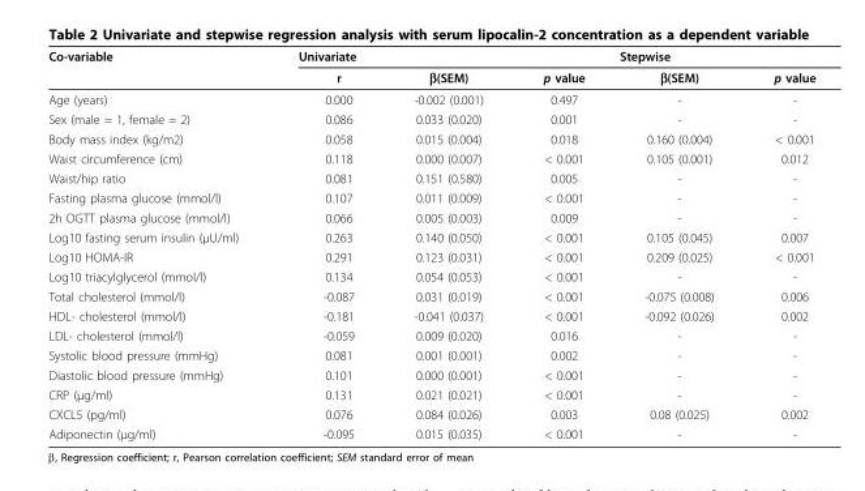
<table><thead><tr><td rowspan="2">Co-variable</td><td colspan="3">Univariate</td><td colspan="2">Stepwise</td></tr><tr><td>r</td><td>β(SEM)</td><td>p value</td><td>β(SEM)</td><td>p value</td></tr></thead><tbody><tr><td>Age (years)</td><td>0.000</td><td>-0.002 (0.001)</td><td>0.497</td><td>-</td><td>-</td></tr><tr><td>Sex (male = 1, female = 2)</td><td>0.086</td><td>0.033 (0.020)</td><td>0.001</td><td>-</td><td>-</td></tr><tr><td>Body mass index (kg/m2)</td><td>0.058</td><td>0.015 (0.004)</td><td>0.018</td><td>0.160 (0.004)</td><td>&lt; 0.001</td></tr><tr><td>Waist circumference (cm)</td><td>0.118</td><td>0.000 (0.007)</td><td>&lt; 0.001</td><td>0.105 (0.001)</td><td>0.012</td></tr><tr><td>Waist/hip ratio</td><td>0.081</td><td>0.151 (0.580)</td><td>0.005</td><td>-</td><td>-</td></tr><tr><td>Fasting plasma glucose (mmol/l)</td><td>0.107</td><td>0.011 (0.009)</td><td>&lt; 0.001</td><td>-</td><td>-</td></tr><tr><td>2h OGTT plasma glucose (mmol/l)</td><td>0.066</td><td>0.005 (0.003)</td><td>0.009</td><td>-</td><td>-</td></tr><tr><td>Log10 fasting serum insulin (μU/ml)</td><td>0.263</td><td>0.140 (0.050)</td><td>&lt; 0.001</td><td>0.105 (0.045)</td><td>0.007</td></tr><tr><td>Log10 HOMA-IR</td><td>0.291</td><td>0.123 (0.031)</td><td>&lt; 0.001</td><td>0.209 (0.025)</td><td>&lt; 0.001</td></tr><tr><td>Log10 triacylglycerol (mmol/l)</td><td>0.134</td><td>0.054 (0.053)</td><td>&lt; 0.001</td><td>-</td><td>-</td></tr><tr><td>Total cholesterol (mmol/l)</td><td>-0.087</td><td>0.031 (0.019)</td><td>&lt; 0.001</td><td>-0.075 (0.008)</td><td>0.006</td></tr><tr><td>HDL- cholesterol (mmol/l)</td><td>-0.181</td><td>-0.041 (0.037)</td><td>&lt; 0.001</td><td>-0.092 (0.026)</td><td>0.002</td></tr><tr><td>LDL- cholesterol (mmol/l)</td><td>-0.059</td><td>0.009 (0.020)</td><td>0.016</td><td>-</td><td>-</td></tr><tr><td>Systolic blood pressure (mmHg)</td><td>0.081</td><td>0.001 (0.001)</td><td>0.002</td><td>-</td><td>-</td></tr><tr><td>Diastolic blood pressure (mmHg)</td><td>0.101</td><td>0.000 (0.001)</td><td>&lt; 0.001</td><td>-</td><td>-</td></tr><tr><td>CRP (μg/ml)</td><td>0.131</td><td>0.021 (0.021)</td><td>&lt; 0.001</td><td>-</td><td>-</td></tr><tr><td>CXCL5 (pg/ml)</td><td>0.076</td><td>0.084 (0.026)</td><td>0.003</td><td>0.08 (0.025)</td><td>0.002</td></tr><tr><td>Adiponectin (μg/ml)</td><td>-0.095</td><td>0.015 (0.035)</td><td>&lt; 0.001</td><td>-</td><td>-</td></tr></tbody></table>